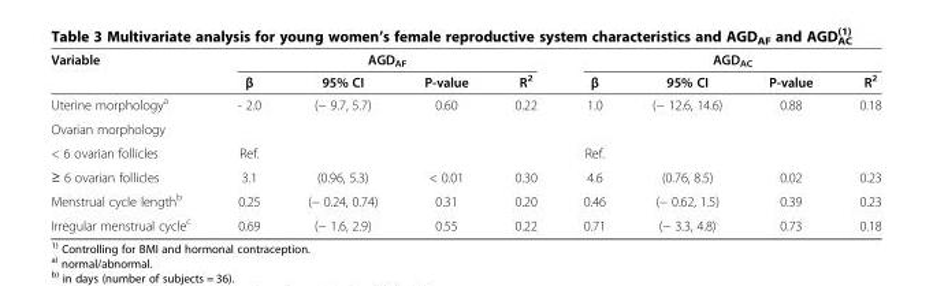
<table><thead><tr><td rowspan="2">Variable</td><td colspan="4">AGD<sub>AF</sub></td><td colspan="4">AGD<sub>AC</sub></td></tr><tr><td>β</td><td>95% CI</td><td>P-value</td><td>R<sup>2</sup></td><td>β</td><td>95% CI</td><td>P-value</td><td>R<sup>2</sup></td></tr></thead><tbody><tr><td>Uterine morphology<sup>a</sup></td><td>- 2.0</td><td>(− 9.7, 5.7)</td><td>0.60</td><td>0.22</td><td>1.0</td><td>(− 12.6, 14.6)</td><td>0.88</td><td>0.18</td></tr><tr><td colspan="9">Ovarian morphology</td></tr><tr><td>&lt; 6 ovarian follicles</td><td>Ref.</td><td></td><td colspan="2"></td><td>Ref.</td><td></td><td colspan="2"></td></tr><tr><td>≥ 6 ovarian follicles</td><td>3.1</td><td>(0.96, 5.3)</td><td>&lt; 0.01</td><td>0.30</td><td>4.6</td><td>(0.76, 8.5)</td><td>0.02</td><td>0.23</td></tr><tr><td>Menstrual cycle length<sup>b</sup></td><td>0.25</td><td>(− 0.24, 0.74)</td><td>0.31</td><td>0.20</td><td>0.46</td><td>(− 0.62, 1.5)</td><td>0.39</td><td>0.23</td></tr><tr><td>Irregular menstrual cycle<sup>c</sup></td><td>0.69</td><td>(− 1.6, 2.9)</td><td>0.55</td><td>0.22</td><td>0.71</td><td>(− 3.3, 4.8)</td><td>0.73</td><td>0.18</td></tr></tbody></table>